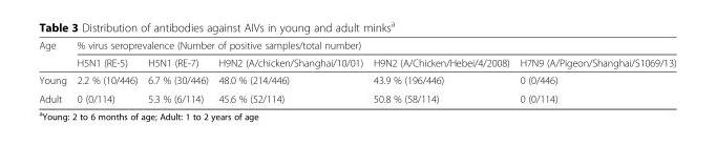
<table><thead><tr><td rowspan="2">Age</td><td colspan="5">% virus seroprevalence (Number of positive samples/total number)</td></tr><tr><td>H5N1 (RE-5)</td><td>H5N1 (RE-7)</td><td>H9N2 (A/chicken/Shanghai/10/01)</td><td>H9N2 (A/Chicken/Hebei/4/2008)</td><td>H7N9 (A/Pigeon/Shanghai/S1069/13)</td></tr></thead><tbody><tr><td>Young</td><td>2.2 % (10/446)</td><td>6.7 % (30/446)</td><td>48.0 % (214/446)</td><td>43.9 % (196/446)</td><td>0 (0/446)</td></tr><tr><td>Adult</td><td>0 (0/114)</td><td>5.3 % (6/114)</td><td>45.6 % (52/114)</td><td>50.8 % (58/114)</td><td>0 (0/114)</td></tr></tbody></table>